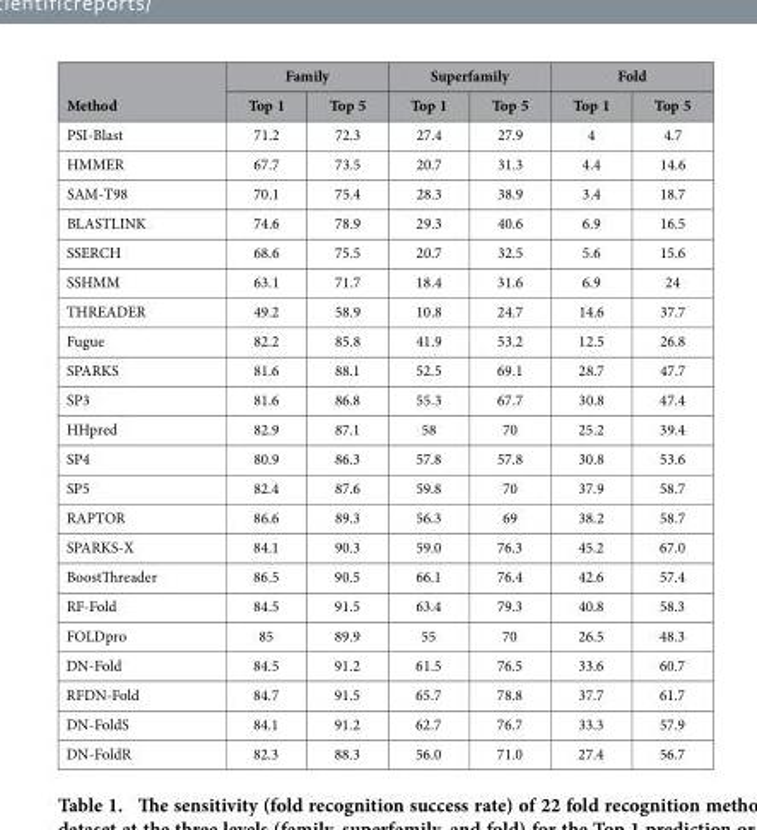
<table><thead><tr><td rowspan="2">Method</td><td colspan="2">Family</td><td colspan="2">Superfamily</td><td colspan="2">Fold</td></tr><tr><td>Top 1</td><td>Top 5</td><td>Top 1</td><td>Top 5</td><td>Top 1</td><td>Top 5</td></tr></thead><tbody><tr><td>PSI-Blast</td><td>71.2</td><td>72.3</td><td>27.4</td><td>27.9</td><td>4</td><td>4.7</td></tr><tr><td>HMMER</td><td>67.7</td><td>73.5</td><td>20.7</td><td>31.3</td><td>4.4</td><td>14.6</td></tr><tr><td>SAM-T98</td><td>70.1</td><td>75.4</td><td>28.3</td><td>38.9</td><td>3.4</td><td>18.7</td></tr><tr><td>BLASTLINK</td><td>74.6</td><td>78.9</td><td>29.3</td><td>40.6</td><td>6.9</td><td>16.5</td></tr><tr><td>SSERCH</td><td>68.6</td><td>75.5</td><td>20.7</td><td>32.5</td><td>5.6</td><td>15.6</td></tr><tr><td>SSHMM</td><td>63.1</td><td>71.7</td><td>18.4</td><td>31.6</td><td>6.9</td><td>24</td></tr><tr><td>THREADER</td><td>49.2</td><td>58.9</td><td>10.8</td><td>24.7</td><td>14.6</td><td>37.7</td></tr><tr><td>Fugue</td><td>82.2</td><td>85.8</td><td>41.9</td><td>53.2</td><td>12.5</td><td>26.8</td></tr><tr><td>SPARKS</td><td>81.6</td><td>88.1</td><td>52.5</td><td>69.1</td><td>28.7</td><td>47.7</td></tr><tr><td>SP3</td><td>81.6</td><td>86.8</td><td>55.3</td><td>67.7</td><td>30.8</td><td>47.4</td></tr><tr><td>HHpred</td><td>82.9</td><td>87.1</td><td>58</td><td>70</td><td>25.2</td><td>39.4</td></tr><tr><td>SP4</td><td>80.9</td><td>86.3</td><td>57.8</td><td>57.8</td><td>30.8</td><td>53.6</td></tr><tr><td>SP5</td><td>82.4</td><td>87.6</td><td>59.8</td><td>70</td><td>37.9</td><td>58.7</td></tr><tr><td>RAPTOR</td><td>86.6</td><td>89.3</td><td>56.3</td><td>69</td><td>38.2</td><td>58.7</td></tr><tr><td>SPARKS-X</td><td>84.1</td><td>90.3</td><td>59.0</td><td>76.3</td><td>45.2</td><td>67.0</td></tr><tr><td>BoostThreader</td><td>86.5</td><td>90.5</td><td>66.1</td><td>76.4</td><td>42.6</td><td>57.4</td></tr><tr><td>RF-Fold</td><td>84.5</td><td>91.5</td><td>63.4</td><td>79.3</td><td>40.8</td><td>58.3</td></tr><tr><td>FOLDpro</td><td>85</td><td>89.9</td><td>55</td><td>70</td><td>26.5</td><td>48.3</td></tr><tr><td>DN-Fold</td><td>84.5</td><td>91.2</td><td>61.5</td><td>76.5</td><td>33.6</td><td>60.7</td></tr><tr><td>RFDN-Fold</td><td>84.7</td><td>91.5</td><td>65.7</td><td>78.8</td><td>37.7</td><td>61.7</td></tr><tr><td>DN-FoldS</td><td>84.1</td><td>91.2</td><td>62.7</td><td>76.7</td><td>33.3</td><td>57.9</td></tr><tr><td>DN-FoldR</td><td>82.3</td><td>88.3</td><td>56.0</td><td>71.0</td><td>27.4</td><td>56.7</td></tr></tbody></table>